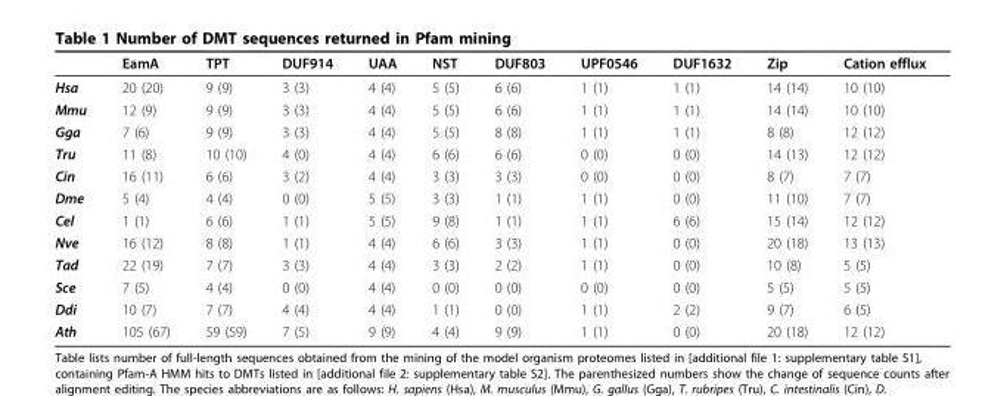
<table><thead><tr><td></td><td>EamA</td><td>TPT</td><td>DUF914</td><td>UAA</td><td>NST</td><td>DUF803</td><td>UPF0546</td><td>DUF1632</td><td>Zip</td><td>Cation efflux</td></tr></thead><tbody><tr><td>Hsa</td><td>20 (20)</td><td>9 (9)</td><td>3 (3)</td><td>4 (4)</td><td>5 (5)</td><td>6 (6)</td><td>1 (1)</td><td>1 (1)</td><td>14 (14)</td><td>10 (10)</td></tr><tr><td>Mmu</td><td>12 (9)</td><td>9 (9)</td><td>3 (3)</td><td>4 (4)</td><td>5 (5)</td><td>6 (6)</td><td>1 (1)</td><td>1 (1)</td><td>14 (14)</td><td>10 (10)</td></tr><tr><td>Gga</td><td>7 (6)</td><td>9 (9)</td><td>3 (3)</td><td>4 (4)</td><td>5 (5)</td><td>8 (8)</td><td>1 (1)</td><td>1 (1)</td><td>8 (8)</td><td>12 (12)</td></tr><tr><td>Tru</td><td>11 (8)</td><td>10 (10)</td><td>4 (0)</td><td>4 (4)</td><td>6 (6)</td><td>6 (6)</td><td>0 (0)</td><td>0 (0)</td><td>14 (13)</td><td>12 (12)</td></tr><tr><td>Cin</td><td>16 (11)</td><td>6 (6)</td><td>3 (2)</td><td>4 (4)</td><td>3 (3)</td><td>3 (3)</td><td>0 (0)</td><td>0 (0)</td><td>8 (7)</td><td>7 (7)</td></tr><tr><td>Dme</td><td>5 (4)</td><td>4 (4)</td><td>0 (0)</td><td>5 (5)</td><td>3 (3)</td><td>1 (1)</td><td>1 (1)</td><td>0 (0)</td><td>11 (10)</td><td>7 (7)</td></tr><tr><td>Cel</td><td>1 (1)</td><td>6 (6)</td><td>1 (1)</td><td>5 (5)</td><td>9 (8)</td><td>1 (1)</td><td>1 (1)</td><td>6 (6)</td><td>15 (14)</td><td>12 (12)</td></tr><tr><td>Nve</td><td>16 (12)</td><td>8 (8)</td><td>1 (1)</td><td>4 (4)</td><td>6 (6)</td><td>3 (3)</td><td>1 (1)</td><td>0 (0)</td><td>20 (18)</td><td>13 (13)</td></tr><tr><td>Tad</td><td>22 (19)</td><td>7 (7)</td><td>3 (3)</td><td>4 (4)</td><td>3 (3)</td><td>2 (2)</td><td>1 (1)</td><td>0 (0)</td><td>10 (8)</td><td>5 (5)</td></tr><tr><td>Sce</td><td>7 (5)</td><td>4 (4)</td><td>0 (0)</td><td>4 (4)</td><td>0 (0)</td><td>0 (0)</td><td>0 (0)</td><td>0 (0)</td><td>5 (5)</td><td>5 (5)</td></tr><tr><td>Ddi</td><td>10 (7)</td><td>7 (7)</td><td>4 (4)</td><td>4 (4)</td><td>1 (1)</td><td>0 (0)</td><td>1 (1)</td><td>2 (2)</td><td>9 (7)</td><td>6 (5)</td></tr><tr><td>Ath</td><td>105 (67)</td><td>59 (59)</td><td>7 (5)</td><td>9 (9)</td><td>4 (4)</td><td>9 (9)</td><td>1 (1)</td><td>0 (0)</td><td>20 (18)</td><td>12 (12)</td></tr></tbody></table>